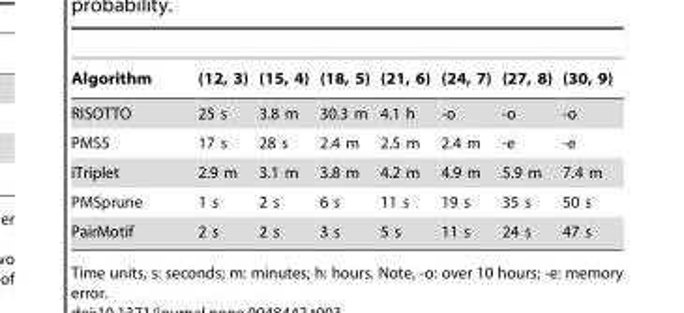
<table><thead><tr><td>Algorithm</td><td>(12, 3)</td><td>(15, 4)</td><td>(18, 5)</td><td>(21, 6)</td><td>(24, 7)</td><td>(27, 8)</td><td>(30, 9)</td></tr></thead><tbody><tr><td>RISOTTO</td><td>25 s</td><td>3.8 m</td><td>30.3 m</td><td>4.1 h</td><td>-o</td><td>-o</td><td>-o</td></tr><tr><td>PMS5</td><td>17 s</td><td>28 s</td><td>2.4 m</td><td>2.5 m</td><td>2.4 m</td><td>-e</td><td>-e</td></tr><tr><td>iTriplet</td><td>2.9 m</td><td>3.1 m</td><td>3.8 m</td><td>4.2 m</td><td>4.9 m</td><td>5.9 m</td><td>7.4 m</td></tr><tr><td>PMSprune</td><td>1 s</td><td>2 s</td><td>6 s</td><td>11 s</td><td>19 s</td><td>35 s</td><td>50 s</td></tr><tr><td>PairMotif</td><td>2 s</td><td>2 s</td><td>3 s</td><td>5 s</td><td>11 s</td><td>24 s</td><td>47 s</td></tr></tbody></table>